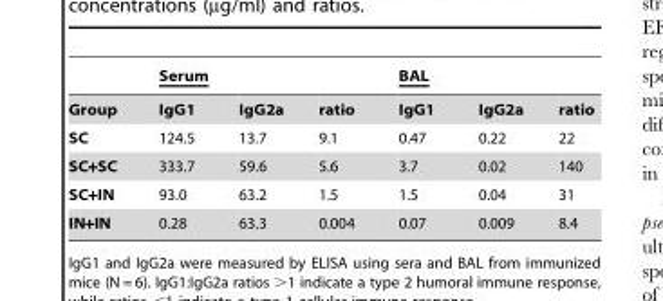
<table><thead><tr><td></td><td>Serum</td><td></td><td></td><td>BAL</td><td></td><td></td></tr></thead><tbody><tr><td>Group</td><td>IgG1</td><td>IgG2a</td><td>ratio</td><td>IgG1</td><td>IgG2a</td><td>ratio</td></tr><tr><td>SC</td><td>124.5</td><td>13.7</td><td>9.1</td><td>0.47</td><td>0.22</td><td>22</td></tr><tr><td>SC+SC</td><td>333.7</td><td>59.6</td><td>5.6</td><td>3.7</td><td>0.02</td><td>140</td></tr><tr><td>SC+IN</td><td>93.0</td><td>63.2</td><td>1.5</td><td>1.5</td><td>0.04</td><td>31</td></tr><tr><td>IN+IN</td><td>0.28</td><td>63.3</td><td>0.004</td><td>0.07</td><td>0.009</td><td>8.4</td></tr></tbody></table>